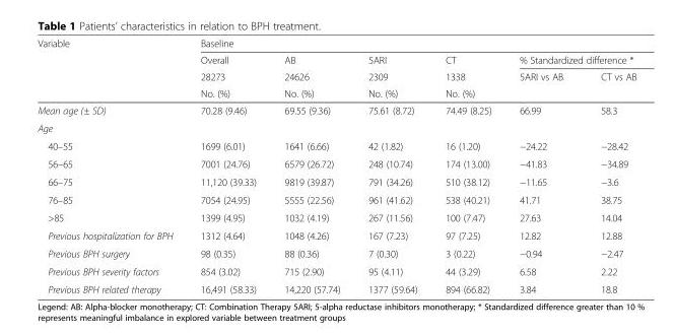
<table><thead><tr><td rowspan="4">Variable</td><td colspan="6">Baseline</td></tr><tr><td rowspan="3">Overall 28273 No. (%)</td><td rowspan="3">AB 24626 No. (%)</td><td rowspan="3">5ARI 2309 No. (%)</td><td rowspan="3">CT 1338 No. (%)</td><td colspan="2">% Standardized difference *</td></tr><tr><td rowspan="2">5ARI vs AB</td><td rowspan="2">CT vs AB</td></tr><tr></tr></thead><tbody><tr><td>Mean age (± SD)</td><td>70.28 (9.46)</td><td>69.55 (9.36)</td><td>75.61 (8.72)</td><td>74.49 (8.25)</td><td>66.99</td><td>58.3</td></tr><tr><td colspan="7">Age</td></tr><tr><td>40–55</td><td>1699 (6.01)</td><td>1641 (6.66)</td><td>42 (1.82)</td><td>16 (1.20)</td><td>−24.22</td><td>−28.42</td></tr><tr><td>56–65</td><td>7001 (24.76)</td><td>6579 (26.72)</td><td>248 (10.74)</td><td>174 (13.00)</td><td>−41.83</td><td>−34.89</td></tr><tr><td>66–75</td><td>11,120 (39.33)</td><td>9819 (39.87)</td><td>791 (34.26)</td><td>510 (38.12)</td><td>−11.65</td><td>−3.6</td></tr><tr><td>76–85</td><td>7054 (24.95)</td><td>5555 (22.56)</td><td>961 (41.62)</td><td>538 (40.21)</td><td>41.71</td><td>38.75</td></tr><tr><td>&gt;85</td><td>1399 (4.95)</td><td>1032 (4.19)</td><td>267 (11.56)</td><td>100 (7.47)</td><td>27.63</td><td>14.04</td></tr><tr><td>Previous hospitalization for BPH</td><td>1312 (4.64)</td><td>1048 (4.26)</td><td>167 (7.23)</td><td>97 (7.25)</td><td>12.82</td><td>12.88</td></tr><tr><td>Previous BPH surgery</td><td>98 (0.35)</td><td>88 (0.36)</td><td>7 (0.30)</td><td>3 (0.22)</td><td>−0.94</td><td>−2.47</td></tr><tr><td>Previous BPH severity factors</td><td>854 (3.02)</td><td>715 (2.90)</td><td>95 (4.11)</td><td>44 (3.29)</td><td>6.58</td><td>2.22</td></tr><tr><td>Previous BPH related therapy</td><td>16,491 (58.33)</td><td>14,220 (57.74)</td><td>1377 (59.64)</td><td>894 (66.82)</td><td>3.84</td><td>18.8</td></tr></tbody></table>